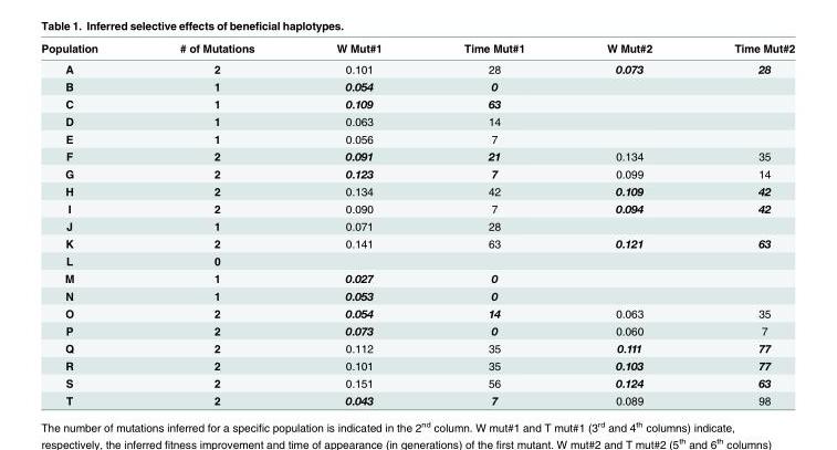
<table><thead><tr><td>Population</td><td># of Mutations</td><td>W Mut#1</td><td>Time Mut#1</td><td>W Mut#2</td><td>Time Mut#2</td></tr></thead><tbody><tr><td>A</td><td>2</td><td>0.101</td><td>28</td><td>0.073</td><td>28</td></tr><tr><td>B</td><td>1</td><td>0.054</td><td>0</td><td></td><td></td></tr><tr><td>C</td><td>1</td><td>0.109</td><td>63</td><td></td><td></td></tr><tr><td>D</td><td>1</td><td>0.063</td><td>14</td><td></td><td></td></tr><tr><td>E</td><td>1</td><td>0.056</td><td>7</td><td></td><td></td></tr><tr><td>F</td><td>2</td><td>0.091</td><td>21</td><td>0.134</td><td>35</td></tr><tr><td>G</td><td>2</td><td>0.123</td><td>7</td><td>0.099</td><td>14</td></tr><tr><td>H</td><td>2</td><td>0.134</td><td>42</td><td>0.109</td><td>42</td></tr><tr><td>I</td><td>2</td><td>0.090</td><td>7</td><td>0.094</td><td>42</td></tr><tr><td>J</td><td>1</td><td>0.071</td><td>28</td><td></td><td></td></tr><tr><td>K</td><td>2</td><td>0.141</td><td>63</td><td>0.121</td><td>63</td></tr><tr><td>L</td><td>0</td><td></td><td></td><td></td><td></td></tr><tr><td>M</td><td>1</td><td>0.027</td><td>0</td><td></td><td></td></tr><tr><td>N</td><td>1</td><td>0.053</td><td>0</td><td></td><td></td></tr><tr><td>O</td><td>2</td><td>0.054</td><td>14</td><td>0.063</td><td>35</td></tr><tr><td>P</td><td>2</td><td>0.073</td><td>0</td><td>0.060</td><td>7</td></tr><tr><td>Q</td><td>2</td><td>0.112</td><td>35</td><td>0.111</td><td>77</td></tr><tr><td>R</td><td>2</td><td>0.101</td><td>35</td><td>0.103</td><td>77</td></tr><tr><td>S</td><td>2</td><td>0.151</td><td>56</td><td>0.124</td><td>63</td></tr><tr><td>T</td><td>2</td><td>0.043</td><td>7</td><td>0.089</td><td>98</td></tr></tbody></table>